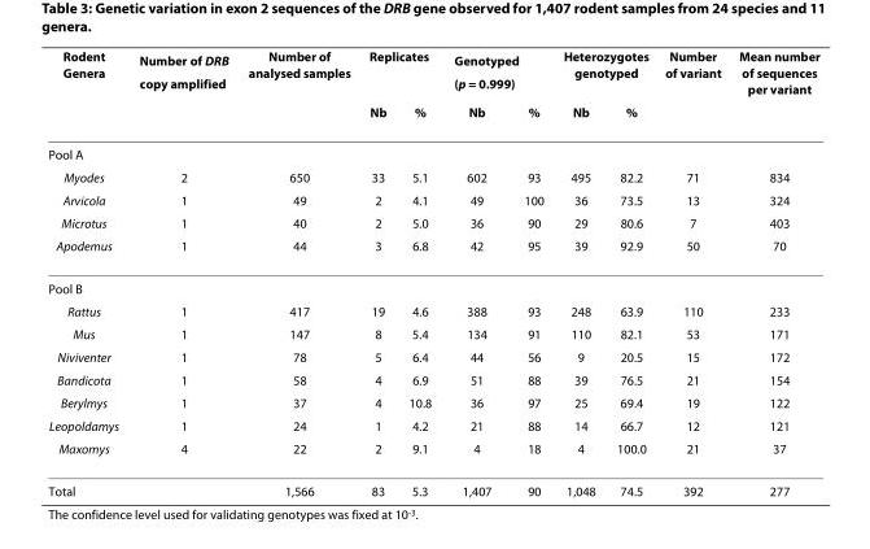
<table><thead><tr><td rowspan="2">Rodent Genera</td><td rowspan="2">Number of DRB copy amplified</td><td rowspan="2">Number of analysed samples</td><td colspan="2">Replicates</td><td colspan="2">Genotyped (p = 0.999)</td><td colspan="2">Heterozygotes genotyped</td><td rowspan="2">Number of variant</td><td rowspan="2">Mean number of sequences per variant</td></tr><tr><td>Nb</td><td>%</td><td>Nb</td><td>%</td><td>Nb</td><td>%</td></tr></thead><tbody><tr><td colspan="11">Pool A</td></tr><tr><td>Myodes</td><td>2</td><td>650</td><td>33</td><td>5.1</td><td>602</td><td>93</td><td>495</td><td>82.2</td><td>71</td><td>834</td></tr><tr><td>Arvicola</td><td>1</td><td>49</td><td>2</td><td>4.1</td><td>49</td><td>100</td><td>36</td><td>73.5</td><td>13</td><td>324</td></tr><tr><td>Microtus</td><td>1</td><td>40</td><td>2</td><td>5.0</td><td>36</td><td>90</td><td>29</td><td>80.6</td><td>7</td><td>403</td></tr><tr><td>Apodemus</td><td>1</td><td>44</td><td>3</td><td>6.8</td><td>42</td><td>95</td><td>39</td><td>92.9</td><td>50</td><td>70</td></tr><tr><td colspan="11">Pool B</td></tr><tr><td>Rattus</td><td>1</td><td>417</td><td>19</td><td>4.6</td><td>388</td><td>93</td><td>248</td><td>63.9</td><td>110</td><td>233</td></tr><tr><td>Mus</td><td>1</td><td>147</td><td>8</td><td>5.4</td><td>134</td><td>91</td><td>110</td><td>82.1</td><td>53</td><td>171</td></tr><tr><td>Niviventer</td><td>1</td><td>78</td><td>5</td><td>6.4</td><td>44</td><td>56</td><td>9</td><td>20.5</td><td>15</td><td>172</td></tr><tr><td>Bandicota</td><td>1</td><td>58</td><td>4</td><td>6.9</td><td>51</td><td>88</td><td>39</td><td>76.5</td><td>21</td><td>154</td></tr><tr><td>Berylmys</td><td>1</td><td>37</td><td>4</td><td>10.8</td><td>36</td><td>97</td><td>25</td><td>69.4</td><td>19</td><td>122</td></tr><tr><td>Leopoldamys</td><td>1</td><td>24</td><td>1</td><td>4.2</td><td>21</td><td>88</td><td>14</td><td>66.7</td><td>12</td><td>121</td></tr><tr><td>Maxomys</td><td>4</td><td>22</td><td>2</td><td>9.1</td><td>4</td><td>18</td><td>4</td><td>100.0</td><td>21</td><td>37</td></tr><tr><td>Total</td><td></td><td>1,566</td><td>83</td><td>5.3</td><td>1,407</td><td>90</td><td>1,048</td><td>74.5</td><td>392</td><td>277</td></tr></tbody></table>